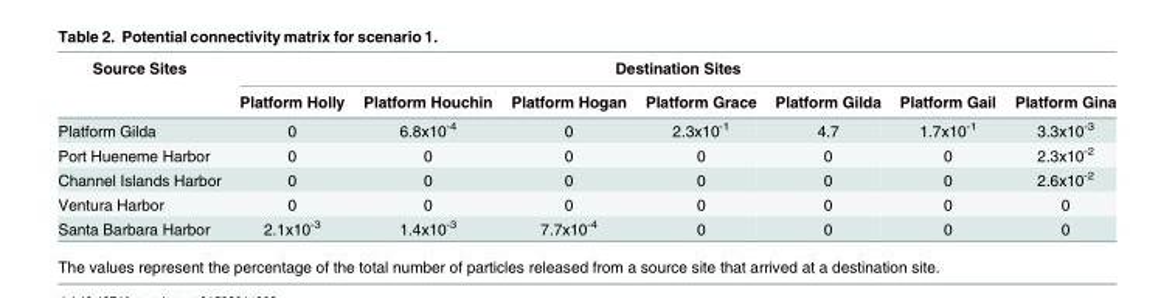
<table><thead><tr><td rowspan="2">Source Sites</td><td colspan="7">Destination Sites</td></tr><tr><td>Platform Holly</td><td>Platform Houchin</td><td>Platform Hogan</td><td>Platform Grace</td><td>Platform Gilda</td><td>Platform Gail</td><td>Platform Gina</td></tr></thead><tbody><tr><td>Platform Gilda</td><td>0</td><td>6.8x10<sup>-4</sup></td><td>0</td><td>2.3x10<sup>-1</sup></td><td>4.7</td><td>1.7x10<sup>-1</sup></td><td>3.3x10<sup>-3</sup></td></tr><tr><td>Port Hueneme Harbor</td><td>0</td><td>0</td><td>0</td><td>0</td><td>0</td><td>0</td><td>2.3x10<sup>-2</sup></td></tr><tr><td>Channel Islands Harbor</td><td>0</td><td>0</td><td>0</td><td>0</td><td>0</td><td>0</td><td>2.6x10<sup>-2</sup></td></tr><tr><td>Ventura Harbor</td><td>0</td><td>0</td><td>0</td><td>0</td><td>0</td><td>0</td><td>0</td></tr><tr><td>Santa Barbara Harbor</td><td>2.1x10<sup>-3</sup></td><td>1.4x10<sup>-3</sup></td><td>7.7x10<sup>-4</sup></td><td>0</td><td>0</td><td>0</td><td>0</td></tr></tbody></table>